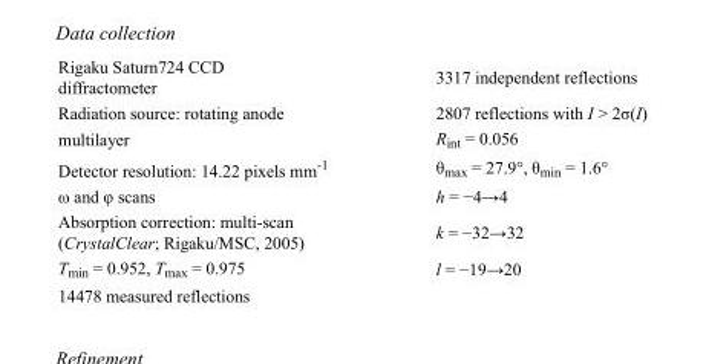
<table><tbody><tr><td>Rigaku Saturn724 CCD diffractometer</td><td>3317 independent reflections</td></tr><tr><td>Radiation source: rotating anode</td><td>2807 reflections with I &gt; 2σ(I)</td></tr><tr><td>multilayer</td><td>R<sub>int</sub> = 0.056</td></tr><tr><td>Detector resolution: 14.22 pixels mm<sup>-1</sup></td><td>θ<sub>max</sub> = 27.9°, θ<sub>min</sub> = 1.6°</td></tr><tr><td>ω and φ scans</td><td>h = −4→4</td></tr><tr><td>Absorption correction: multi-scan (CrystalClear; Rigaku/MSC, 2005)</td><td>k = −32→32</td></tr><tr><td>T<sub>min</sub> = 0.952, T<sub>max</sub> = 0.975</td><td>l = −19→20</td></tr><tr><td>14478 measured reflections</td><td></td></tr></tbody></table>